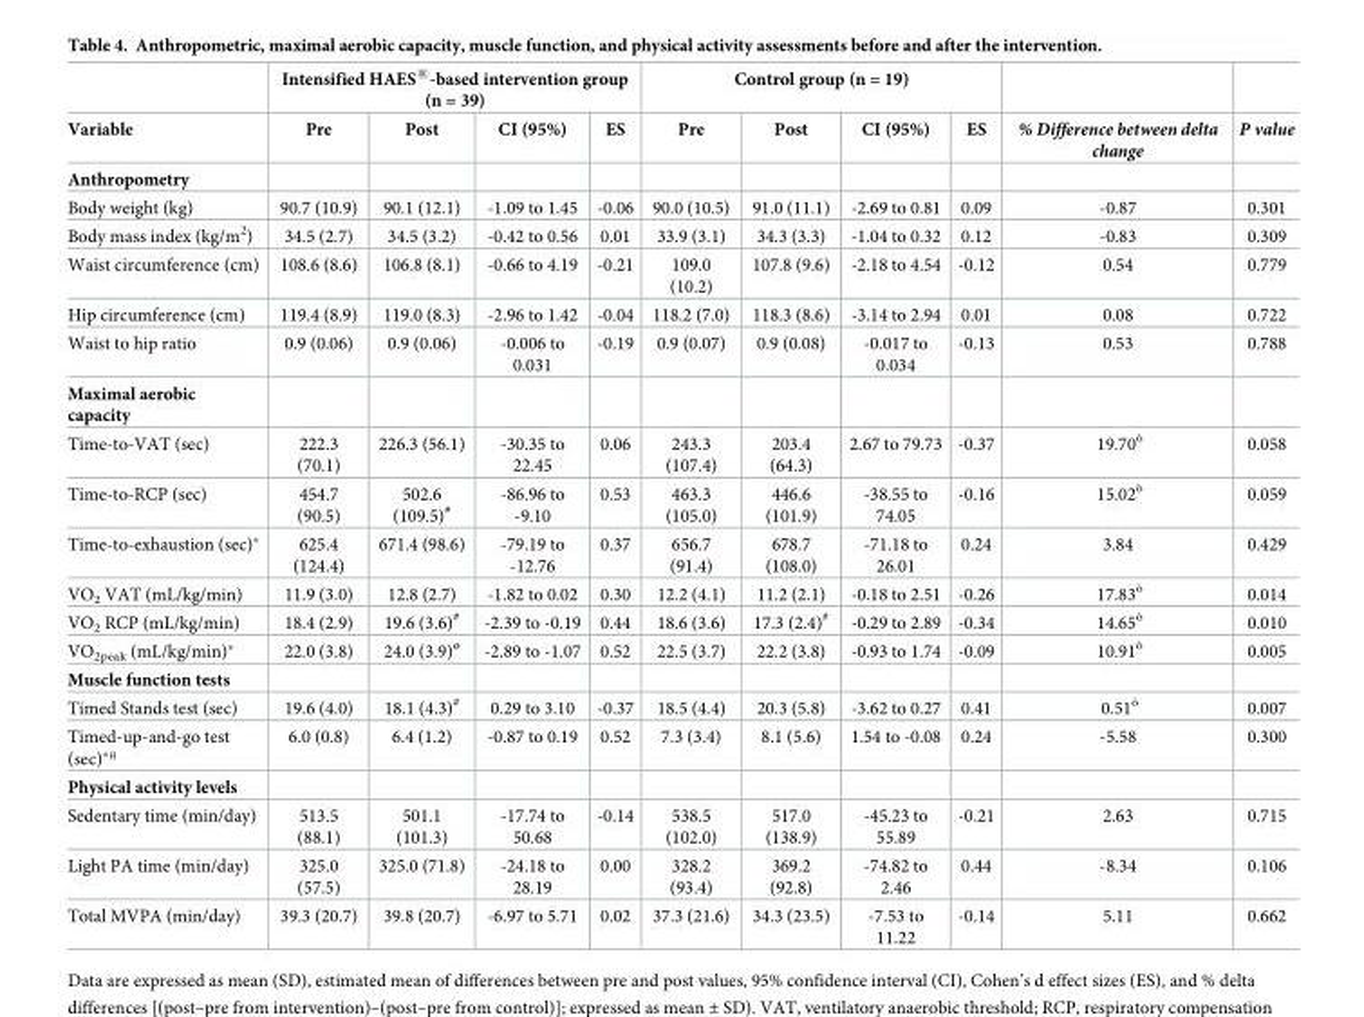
<table><thead><tr><td rowspan="2">Variable</td><td colspan="4">Intensified HAES<sup>®</sup>-based intervention group (n = 39)</td><td colspan="4">Control group (n = 19)</td><td rowspan="2">% Difference between delta change</td><td rowspan="2">P value</td></tr><tr><td>Pre</td><td>Post</td><td>CI (95%)</td><td>ES</td><td>Pre</td><td>Post</td><td>CI (95%)</td><td>ES</td></tr></thead><tbody><tr><td colspan="11">Anthropometry</td></tr><tr><td>Body weight (kg)</td><td>90.7 (10.9)</td><td>90.1 (12.1)</td><td>-1.09 to 1.45</td><td>-0.06</td><td>90.0 (10.5)</td><td>91.0 (11.1)</td><td>-2.69 to 0.81</td><td>0.09</td><td>-0.87</td><td>0.301</td></tr><tr><td>Body mass index (kg/m<sup>2</sup>)</td><td>34.5 (2.7)</td><td>34.5 (3.2)</td><td>-0.42 to 0.56</td><td>0.01</td><td>33.9 (3.1)</td><td>34.3 (3.3)</td><td>-1.04 to 0.32</td><td>0.12</td><td>-0.83</td><td>0.309</td></tr><tr><td>Waist circumference (cm)</td><td>108.6 (8.6)</td><td>106.8 (8.1)</td><td>-0.66 to 4.19</td><td>-0.21</td><td>109.0 (10.2)</td><td>107.8 (9.6)</td><td>-2.18 to 4.54</td><td>-0.12</td><td>0.54</td><td>0.779</td></tr><tr><td>Hip circumference (cm)</td><td>119.4 (8.9)</td><td>119.0 (8.3)</td><td>-2.96 to 1.42</td><td>-0.04</td><td>118.2 (7.0)</td><td>118.3 (8.6)</td><td>-3.14 to 2.94</td><td>0.01</td><td>0.08</td><td>0.722</td></tr><tr><td>Waist to hip ratio</td><td>0.9 (0.06)</td><td>0.9 (0.06)</td><td>-0.006 to 0.031</td><td>-0.19</td><td>0.9 (0.07)</td><td>0.9 (0.08)</td><td>-0.017 to 0.034</td><td>-0.13</td><td>0.53</td><td>0.788</td></tr><tr><td colspan="11">Maximal aerobic capacity</td></tr><tr><td>Time-to-VAT (sec)</td><td>222.3 (70.1)</td><td>226.3 (56.1)</td><td>-30.35 to 22.45</td><td>0.06</td><td>243.3 (107.4)</td><td>203.4 (64.3)</td><td>2.67 to 79.73</td><td>-0.37</td><td>19.70o�</td><td>0.058</td></tr><tr><td>Time-to-RCP (sec)</td><td>454.7 (90.5)</td><td>502.6 (109.5)<sup>#</sup></td><td>-86.96 to -9.10</td><td>0.53</td><td>463.3 (105.0)</td><td>446.6 (101.9)</td><td>-38.55 to 74.05</td><td>-0.16</td><td>15.02o�</td><td>0.059</td></tr><tr><td>Time-to-exhaustion (sec)*</td><td>625.4 (124.4)</td><td>671.4 (98.6)</td><td>-79.19 to -12.76</td><td>0.37</td><td>656.7 (91.4)</td><td>678.7 (108.0)</td><td>-71.18 to 26.01</td><td>0.24</td><td>3.84</td><td>0.429</td></tr><tr><td>VO<sub>2</sub> VAT (mL/kg/min)</td><td>11.9 (3.0)</td><td>12.8 (2.7)</td><td>-1.82 to 0.02</td><td>0.30</td><td>12.2 (4.1)</td><td>11.2 (2.1)</td><td>-0.18 to 2.51</td><td>-0.26</td><td>17.83o�</td><td>0.014</td></tr><tr><td>VO<sub>2</sub> RCP (mL/kg/min)</td><td>18.4 (2.9)</td><td>19.6 (3.6)<sup>#</sup></td><td>-2.39 to -0.19</td><td>0.44</td><td>18.6 (3.6)</td><td>17.3 (2.4)<sup>#</sup></td><td>-0.29 to 2.89</td><td>-0.34</td><td>14.65o�</td><td>0.010</td></tr><tr><td>VO<sub>2peak</sub> (mL/kg/min)*</td><td>22.0 (3.8)</td><td>24.0 (3.9)<sup>ø</sup></td><td>-2.89 to -1.07</td><td>0.52</td><td>22.5 (3.7)</td><td>22.2 (3.8)</td><td>-0.93 to 1.74</td><td>-0.09</td><td>10.91o�</td><td>0.005</td></tr><tr><td colspan="11">Muscle function tests</td></tr><tr><td>Timed Stands test (sec)</td><td>19.6 (4.0)</td><td>18.1 (4.3)<sup>#</sup></td><td>0.29 to 3.10</td><td>-0.37</td><td>18.5 (4.4)</td><td>20.3 (5.8)</td><td>-3.62 to 0.27</td><td>0.41</td><td>0.51o�</td><td>0.007</td></tr><tr><td>Timed-up-and-go test (sec)*ᶿ</td><td>6.0 (0.8)</td><td>6.4 (1.2)</td><td>-0.87 to 0.19</td><td>0.52</td><td>7.3 (3.4)</td><td>8.1 (5.6)</td><td>1.54 to -0.08</td><td>0.24</td><td>-5.58</td><td>0.300</td></tr><tr><td colspan="11">Physical activity levels</td></tr><tr><td>Sedentary time (min/day)</td><td>513.5 (88.1)</td><td>501.1 (101.3)</td><td>-17.74 to 50.68</td><td>-0.14</td><td>538.5 (102.0)</td><td>517.0 (138.9)</td><td>-45.23 to 55.89</td><td>-0.21</td><td>2.63</td><td>0.715</td></tr><tr><td>Light PA time (min/day)</td><td>325.0 (57.5)</td><td>325.0 (71.8)</td><td>-24.18 to 28.19</td><td>0.00</td><td>328.2 (93.4)</td><td>369.2 (92.8)</td><td>-74.82 to 2.46</td><td>0.44</td><td>-8.34</td><td>0.106</td></tr><tr><td>Total MVPA (min/day)</td><td>39.3 (20.7)</td><td>39.8 (20.7)</td><td>-6.97 to 5.71</td><td>0.02</td><td>37.3 (21.6)</td><td>34.3 (23.5)</td><td>-7.53 to 11.22</td><td>-0.14</td><td>5.11</td><td>0.662</td></tr></tbody></table>